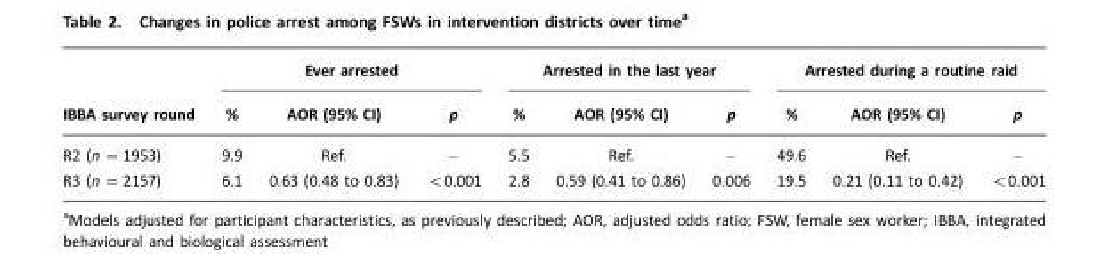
<table><thead><tr><td rowspan="2">IBBA survey round</td><td colspan="3">Ever arrested</td><td colspan="3">Arrested in the last year</td><td colspan="3">Arrested during a routine raid</td></tr><tr><td>%</td><td>AOR (95% CI)</td><td>p</td><td>%</td><td>AOR (95% CI)</td><td>p</td><td>%</td><td>AOR (95% CI)</td><td>p</td></tr></thead><tbody><tr><td>R2 (n =1953)</td><td>9.9</td><td>Ref.</td><td>–</td><td>5.5</td><td>Ref.</td><td>–</td><td>49.6</td><td>Ref.</td><td>–</td></tr><tr><td>R3 (n =2157)</td><td>6.1</td><td>0.63 (0.48 to 0.83)</td><td>&lt;0.001</td><td>2.8</td><td>0.59 (0.41 to 0.86)</td><td>0.006</td><td>19.5</td><td>0.21 (0.11 to 0.42)</td><td>&lt;0.001</td></tr></tbody></table>